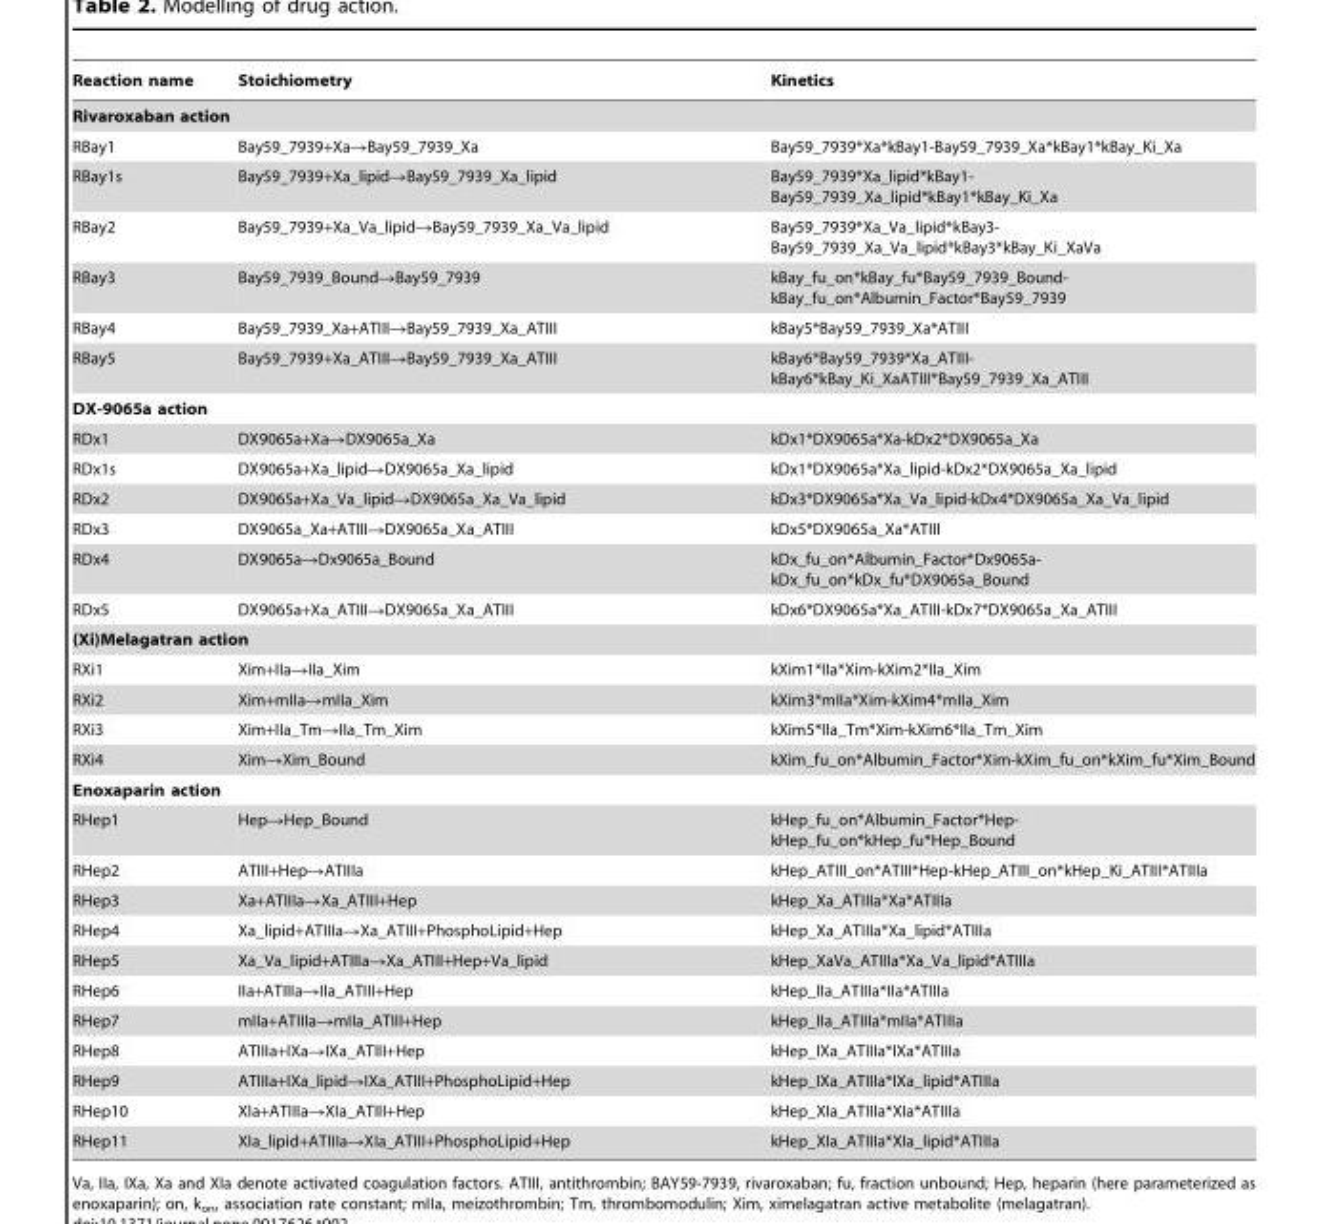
<table><thead><tr><td>Reaction name</td><td>Stoichiometry</td><td>Kinetics</td></tr></thead><tbody><tr><td colspan="3">Rivaroxaban action</td></tr><tr><td>RBay1</td><td>Bay59_7939+Xa→Bay59_7939_Xa</td><td>Bay59_7939*Xa*kBay1-Bay59_7939_Xa*kBay1*kBay_Ki_Xa</td></tr><tr><td>RBay1s</td><td>Bay59_7939+Xa_lipid→Bay59_7939_Xa_lipid</td><td>Bay59_7939*Xa_lipid*kBay1- Bay59_7939_Xa_lipid*kBay1*kBay_Ki_Xa</td></tr><tr><td>RBay2</td><td>Bay59_7939+Xa_Va_lipid→Bay59_7939_Xa_Va_lipid</td><td>Bay59_7939*Xa_Va_lipid*kBay3- Bay59_7939_Xa_Va_lipid*kBay3*kBay_Ki_XaVa</td></tr><tr><td>RBay3</td><td>Bay59_7939_Bound→Bay59_7939</td><td>kBay_fu_on*kBay_fu*Bay59_7939_Bound- kBay_fu_on*Albumin_Factor*Bay59_7939</td></tr><tr><td>RBay4</td><td>Bay59_7939_Xa+ATIII→Bay59_7939_Xa_ATIII</td><td>kBay5*Bay59_7939_Xa*ATIII</td></tr><tr><td>RBay5</td><td>Bay59_7939+Xa_ATIII→Bay59_7939_Xa_ATIII</td><td>kBay6*Bay59_7939*Xa_ATIII- kBay6*kBay_Ki_XaATIII*Bay59_7939_Xa_ATIII</td></tr><tr><td colspan="3">DX-9065a action</td></tr><tr><td>RDx1</td><td>DX9065a+Xa→DX9065a_Xa</td><td>kDx1*DX9065a*Xa-kDx2*DX9065a_Xa</td></tr><tr><td>RDx1s</td><td>DX9065a+Xa_lipid→DX9065a_Xa_lipid</td><td>kDx1*DX9065a*Xa_lipid-kDx2*DX9065a_Xa_lipid</td></tr><tr><td>RDx2</td><td>DX9065a+Xa_Va_lipid→DX9065a_Xa_Va_lipid</td><td>kDx3*DX9065a*Xa_Va_lipid-kDx4*DX9065a_Xa_Va_lipid</td></tr><tr><td>RDx3</td><td>DX9065a_Xa+ATIII→DX9065a_Xa_ATIII</td><td>kDx5*DX9065a_Xa*ATIII</td></tr><tr><td>RDx4</td><td>DX9065a→Dx9065a_Bound</td><td>kDx_fu_on*Albumin_Factor*Dx9065a- kDx_fu_on*kDx_fu*DX9065a_Bound</td></tr><tr><td>RDx5</td><td>DX9065a+Xa_ATIII→DX9065a_Xa_ATIII</td><td>kDx6*DX9065a*Xa_ATIII-kDx7*DX9065a_Xa_ATIII</td></tr><tr><td colspan="3">(Xi)Melagatran action</td></tr><tr><td>RXi1</td><td>Xim+IIa→IIa_Xim</td><td>kXim1*IIa*Xim-kXim2*IIa_Xim</td></tr><tr><td>RXi2</td><td>Xim+mIIa→mIIa_Xim</td><td>kXim3*mIIa*Xim-kXim4*mIIa_Xim</td></tr><tr><td>RXi3</td><td>Xim+IIa_Tm→IIa_Tm_Xim</td><td>kXim5*IIa_Tm*Xim-kXim6*IIa_Tm_Xim</td></tr><tr><td>RXi4</td><td>Xim→Xim_Bound</td><td>kXim_fu_on*Albumin_Factor*Xim-kXim_fu_on*kXim_fu*Xim_Bound</td></tr><tr><td colspan="3">Enoxaparin action</td></tr><tr><td>RHep1</td><td>Hep→Hep_Bound</td><td>kHep_fu_on*Albumin_Factor*Hep- kHep_fu_on*kHep_fu*Hep_Bound</td></tr><tr><td>RHep2</td><td>ATIII+Hep→ATIIIa</td><td>kHep_ATIII_on*ATIII*Hep-kHep_ATIII_on*kHep_Ki_ATIII*ATIIIa</td></tr><tr><td>RHep3</td><td>Xa+ATIIIa→Xa_ATIII+Hep</td><td>kHep_Xa_ATIIIa*Xa*ATIIIa</td></tr><tr><td>RHep4</td><td>Xa_lipid+ATIIIa→Xa_ATIII+PhosphoLipid+Hep</td><td>kHep_Xa_ATIIIa*Xa_lipid*ATIIIa</td></tr><tr><td>RHep5</td><td>Xa_Va_lipid+ATIIIa→Xa_ATIII+Hep+Va_lipid</td><td>kHep_XaVa_ATIIIa*Xa_Va_lipid*ATIIIa</td></tr><tr><td>RHep6</td><td>IIa+ATIIIa→IIa_ATIII+Hep</td><td>kHep_IIa_ATIIIa*IIa*ATIIIa</td></tr><tr><td>RHep7</td><td>mIIa+ATIIIa→mIIa_ATIII+Hep</td><td>kHep_IIa_ATIIIa*mIIa*ATIIIa</td></tr><tr><td>RHep8</td><td>ATIIIa+IXa→IXa_ATIII+Hep</td><td>kHep_IXa_ATIIIa*IXa*ATIIIa</td></tr><tr><td>RHep9</td><td>ATIIIa+IXa_lipid→IXa_ATIII+PhosphoLipid+Hep</td><td>kHep_IXa_ATIIIa*IXa_lipid*ATIIIa</td></tr><tr><td>RHep10</td><td>XIa+ATIIIa→XIa_ATIII+Hep</td><td>kHep_XIa_ATIIIa*XIa*ATIIIa</td></tr><tr><td>RHep11</td><td>XIa_lipid+ATIIIa→XIa_ATIII+PhosphoLipid+Hep</td><td>kHep_XIa_ATIIIa*XIa_lipid*ATIIIa</td></tr></tbody></table>